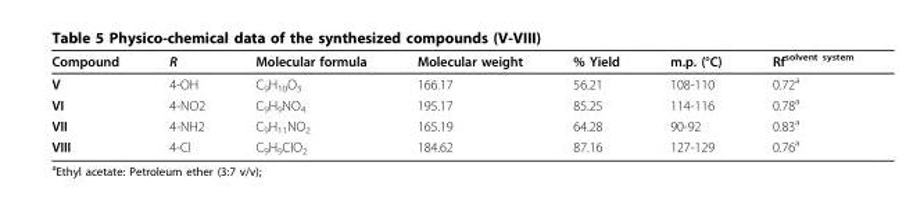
<table><thead><tr><td>Compound</td><td>R</td><td>Molecular formula</td><td>Molecular weight</td><td>% Yield</td><td>m.p. (°C)</td><td>Rf<sup>solvent system</sup></td></tr></thead><tbody><tr><td>V</td><td>4-OH</td><td>C<sub>9</sub>H<sub>10</sub>O<sub>3</sub></td><td>166.17</td><td>56.21</td><td>108-110</td><td>0.72<sup>a</sup></td></tr><tr><td>VI</td><td>4-NO2</td><td>C<sub>9</sub>H<sub>9</sub>NO<sub>4</sub></td><td>195.17</td><td>85.25</td><td>114-116</td><td>0.78<sup>a</sup></td></tr><tr><td>VII</td><td>4-NH2</td><td>C<sub>9</sub>H<sub>11</sub>NO<sub>2</sub></td><td>165.19</td><td>64.28</td><td>90-92</td><td>0.83<sup>a</sup></td></tr><tr><td>VIII</td><td>4-Cl</td><td>C<sub>9</sub>H<sub>9</sub>ClO<sub>2</sub></td><td>184.62</td><td>87.16</td><td>127-129</td><td>0.76<sup>a</sup></td></tr></tbody></table>